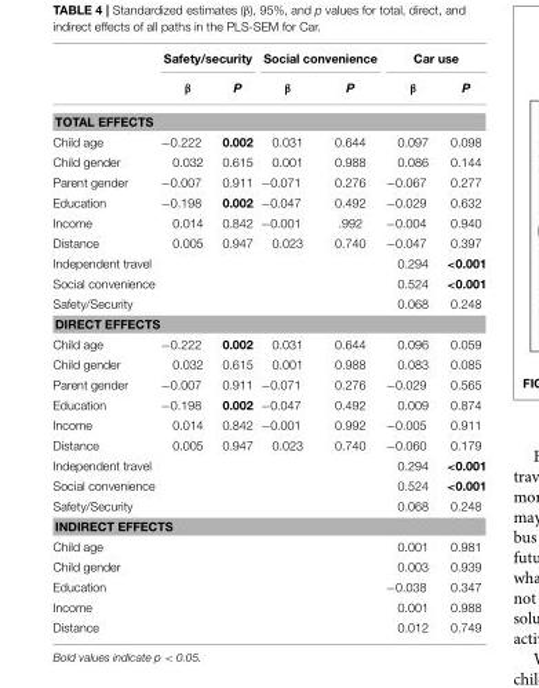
<table><thead><tr><td rowspan="2"></td><td colspan="2">Safety/security</td><td colspan="2">Social convenience</td><td colspan="2">Car use</td></tr><tr><td>β</td><td>P</td><td>β</td><td>P</td><td>β</td><td>P</td></tr></thead><tbody><tr><td colspan="7">TOTAL EFFECTS</td></tr><tr><td>Child age</td><td>−0.222</td><td>0.002</td><td>0.031</td><td>0.644</td><td>0.097</td><td>0.098</td></tr><tr><td>Child gender</td><td>0.032</td><td>0.615</td><td>0.001</td><td>0.988</td><td>0.086</td><td>0.144</td></tr><tr><td>Parent gender</td><td>−0.007</td><td>0.911</td><td>−0.071</td><td>0.276</td><td>−0.067</td><td>0.277</td></tr><tr><td>Education</td><td>−0.198</td><td>0.002</td><td>−0.047</td><td>0.492</td><td>−0.029</td><td>0.632</td></tr><tr><td>Income</td><td>0.014</td><td>0.842</td><td>−0.001</td><td>.992</td><td>−0.004</td><td>0.940</td></tr><tr><td>Distance</td><td>0.005</td><td>0.947</td><td>0.023</td><td>0.740</td><td>−0.047</td><td>0.397</td></tr><tr><td>Independent travel</td><td></td><td></td><td></td><td></td><td>0.294</td><td>&lt;0.001</td></tr><tr><td>Social convenience</td><td></td><td></td><td></td><td></td><td>0.524</td><td>&lt;0.001</td></tr><tr><td>Safety/Security</td><td></td><td></td><td></td><td></td><td>0.068</td><td>0.248</td></tr><tr><td colspan="7">DIRECT EFFECTS</td></tr><tr><td>Child age</td><td>−0.222</td><td>0.002</td><td>0.031</td><td>0.644</td><td>0.096</td><td>0.059</td></tr><tr><td>Child gender</td><td>0.032</td><td>0.615</td><td>0.001</td><td>0.988</td><td>0.083</td><td>0.085</td></tr><tr><td>Parent gender</td><td>−0.007</td><td>0.911</td><td>−0.071</td><td>0.276</td><td>−0.029</td><td>0.565</td></tr><tr><td>Education</td><td>−0.198</td><td>0.002</td><td>−0.047</td><td>0.492</td><td>0.009</td><td>0.874</td></tr><tr><td>Income</td><td>0.014</td><td>0.842</td><td>−0.001</td><td>0.992</td><td>−0.005</td><td>0.911</td></tr><tr><td>Distance</td><td>0.005</td><td>0.947</td><td>0.023</td><td>0.740</td><td>−0.060</td><td>0.179</td></tr><tr><td>Independent travel</td><td></td><td></td><td></td><td></td><td>0.294</td><td>&lt;0.001</td></tr><tr><td>Social convenience</td><td></td><td></td><td></td><td></td><td>0.524</td><td>&lt;0.001</td></tr><tr><td>Safety/Security</td><td></td><td></td><td></td><td></td><td>0.068</td><td>0.248</td></tr><tr><td colspan="7">INDIRECT EFFECTS</td></tr><tr><td>Child age</td><td></td><td></td><td></td><td></td><td>0.001</td><td>0.981</td></tr><tr><td>Child gender</td><td></td><td></td><td></td><td></td><td>0.003</td><td>0.939</td></tr><tr><td>Education</td><td></td><td></td><td></td><td></td><td>−0.038</td><td>0.347</td></tr><tr><td>Income</td><td></td><td></td><td></td><td></td><td>0.001</td><td>0.988</td></tr><tr><td>Distance</td><td></td><td></td><td></td><td></td><td>0.012</td><td>0.749</td></tr></tbody></table>